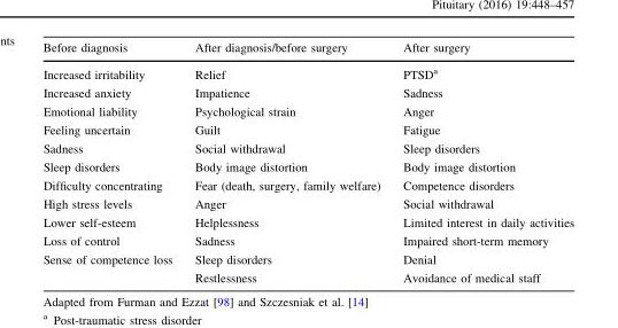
<table><thead><tr><td>Before diagnosis</td><td>After diagnosis/before surgery</td><td>After surgery</td></tr></thead><tbody><tr><td>Increased irritability</td><td>Relief</td><td>PTSD<sup>a</sup></td></tr><tr><td>Increased anxiety</td><td>Impatience</td><td>Sadness</td></tr><tr><td>Emotional liability</td><td>Psychological strain</td><td>Anger</td></tr><tr><td>Feeling uncertain</td><td>Guilt</td><td>Fatigue</td></tr><tr><td>Sadness</td><td>Social withdrawal</td><td>Sleep disorders</td></tr><tr><td>Sleep disorders</td><td>Body image distortion</td><td>Body image distortion</td></tr><tr><td>Difficulty concentrating</td><td>Fear (death, surgery, family welfare)</td><td>Competence disorders</td></tr><tr><td>High stress levels</td><td>Anger</td><td>Social withdrawal</td></tr><tr><td>Lower self-esteem</td><td>Helplessness</td><td>Limited interest in daily activities</td></tr><tr><td>Loss of control</td><td>Sadness</td><td>Impaired short-term memory</td></tr><tr><td rowspan="2">Sense of competence loss</td><td>Sleep disorders</td><td>Denial</td></tr><tr><td>Restlessness</td><td>Avoidance of medical staff</td></tr></tbody></table>